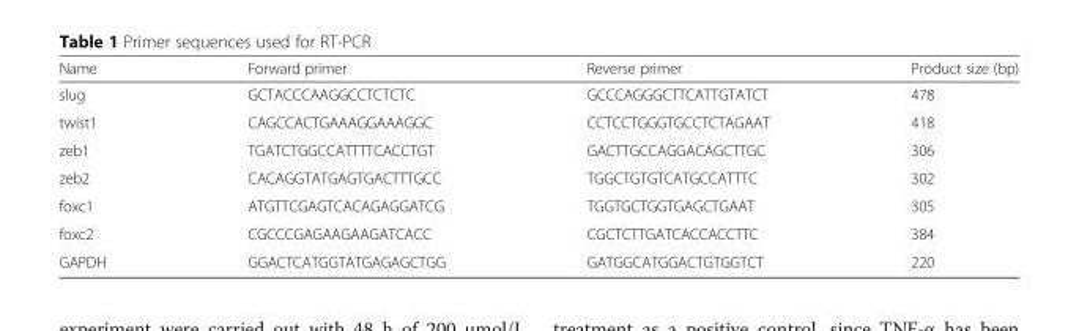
<table><thead><tr><td>Name</td><td>Forward primer</td><td>Reverse primer</td><td>Product size (bp)</td></tr></thead><tbody><tr><td>slug</td><td>GCTACCCAAGGCCTCTCTC</td><td>GCCCAGGGCTTCATTGTATCT</td><td>478</td></tr><tr><td>twist1</td><td>CAGCCACTGAAAGGAAAGGC</td><td>CCTCCTGGGTGCCTCTAGAAT</td><td>418</td></tr><tr><td>zeb1</td><td>TGATCTGGCCATTTTCACCTGT</td><td>GACTTGCCAGGACAGCTTGC</td><td>306</td></tr><tr><td>zeb2</td><td>CACAGGTATGAGTGACTTTGCC</td><td>TGGCTGTGTCATGCCATTTC</td><td>302</td></tr><tr><td>foxc1</td><td>ATGTTCGAGTCACAGAGGATCG</td><td>TGGTGCTGGTGAGCTGAAT</td><td>305</td></tr><tr><td>foxc2</td><td>CGCCCGAGAAGAAGATCACC</td><td>CGCTCTTGATCACCACCTTC</td><td>384</td></tr><tr><td>GAPDH</td><td>GGACTCATGGTATGAGAGCTGG</td><td>GATGGCATGGACTGTGGTCT</td><td>220</td></tr></tbody></table>